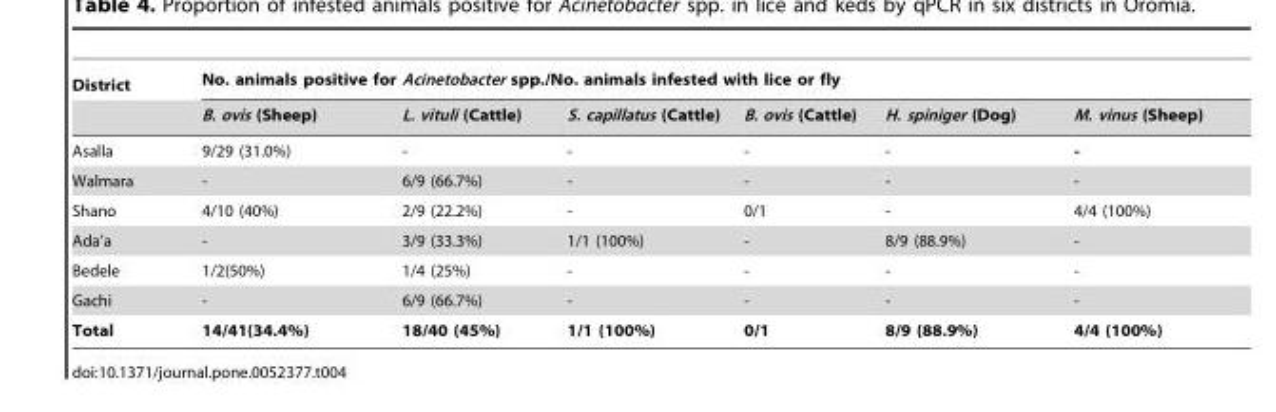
<table><thead><tr><td rowspan="2">District</td><td colspan="6">No. animals positive for Acinetobacter spp./No. animals infested with lice or fly</td></tr><tr><td>B. ovis (Sheep)</td><td>L. vituli (Cattle)</td><td>S. capillatus (Cattle)</td><td>B. ovis (Cattle)</td><td>H. spiniger (Dog)</td><td>M. vinus (Sheep)</td></tr></thead><tbody><tr><td>Asalla</td><td>9/29 (31.0%)</td><td>-</td><td>-</td><td>-</td><td>-</td><td>-</td></tr><tr><td>Walmara</td><td>-</td><td>6/9 (66.7%)</td><td>-</td><td>-</td><td>-</td><td>-</td></tr><tr><td>Shano</td><td>4/10 (40%)</td><td>2/9 (22.2%)</td><td>-</td><td>0/1</td><td>-</td><td>4/4 (100%)</td></tr><tr><td>Ada’a</td><td>-</td><td>3/9 (33.3%)</td><td>1/1 (100%)</td><td>-</td><td>8/9 (88.9%)</td><td>-</td></tr><tr><td>Bedele</td><td>1/2(50%)</td><td>1/4 (25%)</td><td>-</td><td>-</td><td>-</td><td>-</td></tr><tr><td>Gachi</td><td>-</td><td>6/9 (66.7%)</td><td>-</td><td>-</td><td>-</td><td>-</td></tr><tr><td>Total</td><td>14/41(34.4%)</td><td>18/40 (45%)</td><td>1/1 (100%)</td><td>0/1</td><td>8/9 (88.9%)</td><td>4/4 (100%)</td></tr></tbody></table>